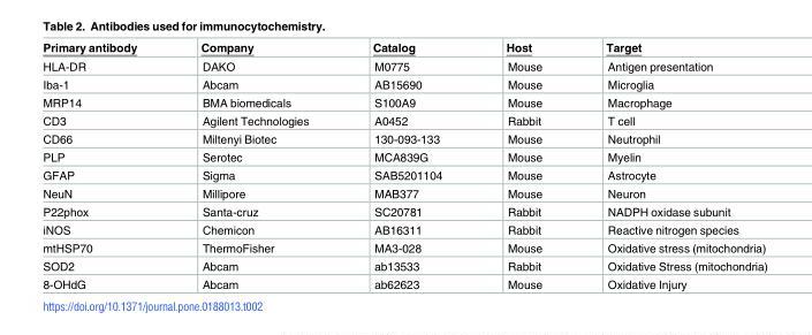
<table><thead><tr><td>Primary antibody</td><td>Company</td><td>Catalog</td><td>Host</td><td>Target</td></tr></thead><tbody><tr><td>HLA-DR</td><td>DAKO</td><td>M0775</td><td>Mouse</td><td>Antigen presentation</td></tr><tr><td>Iba-1</td><td>Abcam</td><td>AB15690</td><td>Mouse</td><td>Microglia</td></tr><tr><td>MRP14</td><td>BMA biomedicals</td><td>S100A9</td><td>Mouse</td><td>Macrophage</td></tr><tr><td>CD3</td><td>Agilent Technologies</td><td>A0452</td><td>Rabbit</td><td>T cell</td></tr><tr><td>CD66</td><td>Miltenyi Biotec</td><td>130-093-133</td><td>Mouse</td><td>Neutrophil</td></tr><tr><td>PLP</td><td>Serotec</td><td>MCA839G</td><td>Mouse</td><td>Myelin</td></tr><tr><td>GFAP</td><td>Sigma</td><td>SAB5201104</td><td>Mouse</td><td>Astrocyte</td></tr><tr><td>NeuN</td><td>Millipore</td><td>MAB377</td><td>Mouse</td><td>Neuron</td></tr><tr><td>P22phox</td><td>Santa-cruz</td><td>SC20781</td><td>Rabbit</td><td>NADPH oxidase subunit</td></tr><tr><td>iNOS</td><td>Chemicon</td><td>AB16311</td><td>Rabbit</td><td>Reactive nitrogen species</td></tr><tr><td>mtHSP70</td><td>ThermoFisher</td><td>MA3-028</td><td>Mouse</td><td>Oxidative stress (mitochondria)</td></tr><tr><td>SOD2</td><td>Abcam</td><td>ab13533</td><td>Rabbit</td><td>Oxidative Stress (mitochondria)</td></tr><tr><td>8-OHdG</td><td>Abcam</td><td>ab62623</td><td>Mouse</td><td>Oxidative Injury</td></tr></tbody></table>